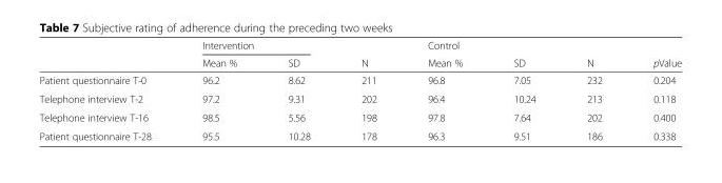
<table><thead><tr><td rowspan="2"></td><td colspan="2">Intervention</td><td rowspan="2">N</td><td rowspan="2">Control Mean %</td><td rowspan="2">SD</td><td rowspan="2">N</td><td rowspan="2">pValue</td></tr><tr><td>Mean %</td><td>SD</td></tr></thead><tbody><tr><td>Patient questionnaire T-0</td><td>96.2</td><td>8.62</td><td>211</td><td>96.8</td><td>7.05</td><td>232</td><td>0.204</td></tr><tr><td>Telephone interview T-2</td><td>97.2</td><td>9.31</td><td>202</td><td>96.4</td><td>10.24</td><td>213</td><td>0.118</td></tr><tr><td>Telephone interview T-16</td><td>98.5</td><td>5.56</td><td>198</td><td>97.8</td><td>7.64</td><td>202</td><td>0.400</td></tr><tr><td>Patient questionnaire T-28</td><td>95.5</td><td>10.28</td><td>178</td><td>96.3</td><td>9.51</td><td>186</td><td>0.338</td></tr></tbody></table>